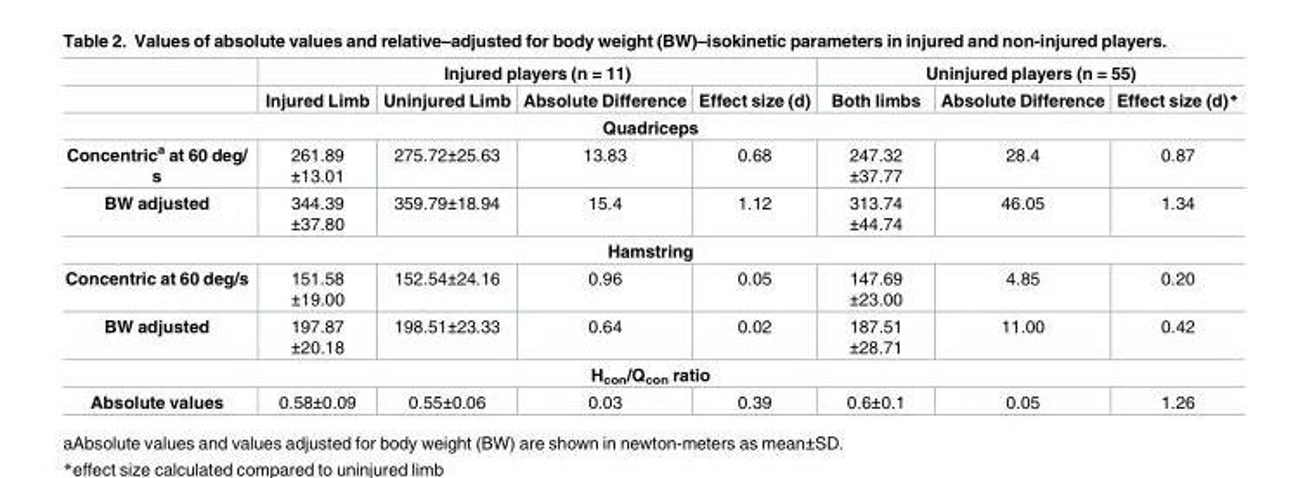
<table><thead><tr><td rowspan="2"></td><td colspan="4">Injured players (n = 11)</td><td colspan="3">Uninjured players (n = 55)</td></tr><tr><td>Injured Limb</td><td>Uninjured Limb</td><td>Absolute Difference</td><td>Effect size (d)</td><td>Both limbs</td><td>Absolute Difference</td><td>Effect size (d)*</td></tr></thead><tbody><tr><td colspan="8">Quadriceps</td></tr><tr><td>Concentric<sup>a</sup> at 60 deg/ s</td><td>261.89 ±13.01</td><td>275.72±25.63</td><td>13.83</td><td>0.68</td><td>247.32 ±37.77</td><td>28.4</td><td>0.87</td></tr><tr><td>BW adjusted</td><td>344.39 ±37.80</td><td>359.79±18.94</td><td>15.4</td><td>1.12</td><td>313.74 ±44.74</td><td>46.05</td><td>1.34</td></tr><tr><td colspan="8">Hamstring</td></tr><tr><td>Concentric at 60 deg/s</td><td>151.58 ±19.00</td><td>152.54±24.16</td><td>0.96</td><td>0.05</td><td>147.69 ±23.00</td><td>4.85</td><td>0.20</td></tr><tr><td>BW adjusted</td><td>197.87 ±20.18</td><td>198.51±23.33</td><td>0.64</td><td>0.02</td><td>187.51 ±28.71</td><td>11.00</td><td>0.42</td></tr><tr><td colspan="8">H<sub>con</sub>/Q<sub>con</sub> ratio</td></tr><tr><td>Absolute values</td><td>0.58±0.09</td><td>0.55±0.06</td><td>0.03</td><td>0.39</td><td>0.6±0.1</td><td>0.05</td><td>1.26</td></tr></tbody></table>